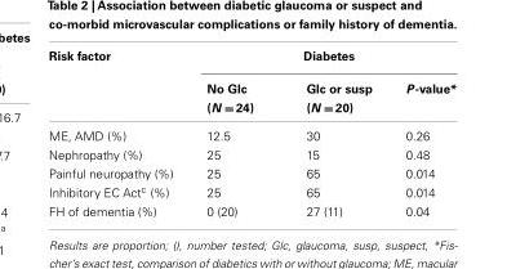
<table><thead><tr><td rowspan="2">Risk factor</td><td colspan="3">Diabetes</td></tr><tr><td>No Glc (N = 24)</td><td>Glc or susp (N = 20)</td><td>P-value*</td></tr></thead><tbody><tr><td>ME, AMD (%)</td><td>12.5</td><td>30</td><td>0.26</td></tr><tr><td>Nephropathy (%)</td><td>25</td><td>15</td><td>0.48</td></tr><tr><td>Painful neuropathy (%)</td><td>25</td><td>65</td><td>0.014</td></tr><tr><td>Inhibitory EC Act<sup>c</sup> (%)</td><td>25</td><td>65</td><td>0.014</td></tr><tr><td>FH of dementia (%)</td><td>0 (20)</td><td>27 (11)</td><td>0.04</td></tr></tbody></table>